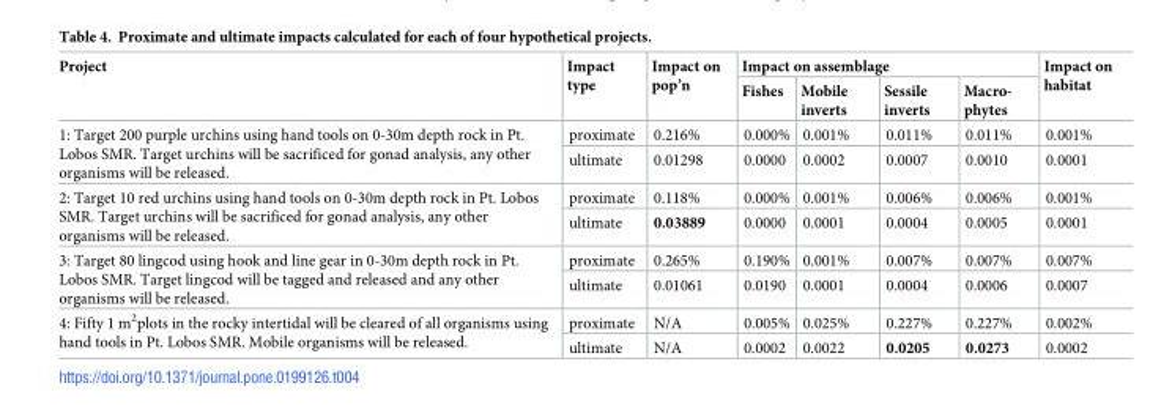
<table><thead><tr><td rowspan="2">Project</td><td rowspan="2">Impact type</td><td rowspan="2">Impact on pop’n</td><td colspan="4">Impact on assemblage</td><td rowspan="2">Impact on habitat</td></tr><tr><td>Fishes</td><td>Mobile inverts</td><td>Sessile inverts</td><td>Macro- phytes</td></tr></thead><tbody><tr><td rowspan="2">1: Target 200 purple urchins using hand tools on 0-30m depth rock in Pt. Lobos SMR. Target urchins will be sacrificed for gonad analysis, any other organisms will be released.</td><td>proximate</td><td>0.216%</td><td>0.000%</td><td>0.001%</td><td>0.011%</td><td>0.011%</td><td>0.001%</td></tr><tr><td>ultimate</td><td>0.01298</td><td>0.0000</td><td>0.0002</td><td>0.0007</td><td>0.0010</td><td>0.0001</td></tr><tr><td rowspan="2">2: Target 10 red urchins using hand tools on 0-30m depth rock in Pt. Lobos SMR. Target urchins will be sacrificed for gonad analysis, any other organisms will be released.</td><td>proximate</td><td>0.118%</td><td>0.000%</td><td>0.001%</td><td>0.006%</td><td>0.006%</td><td>0.001%</td></tr><tr><td>ultimate</td><td>0.03889</td><td>0.0000</td><td>0.0001</td><td>0.0004</td><td>0.0005</td><td>0.0001</td></tr><tr><td rowspan="2">3: Target 80 lingcod using hook and line gear in 0-30m depth rock in Pt. Lobos SMR. Target lingcod will be tagged and released and any other organisms will be released.</td><td>proximate</td><td>0.265%</td><td>0.190%</td><td>0.001%</td><td>0.007%</td><td>0.007%</td><td>0.007%</td></tr><tr><td>ultimate</td><td>0.01061</td><td>0.0190</td><td>0.0001</td><td>0.0004</td><td>0.0006</td><td>0.0007</td></tr><tr><td rowspan="2">4: Fifty 1 m<sup>2</sup>plots in the rocky intertidal will be cleared of all organisms using hand tools in Pt. Lobos SMR. Mobile organisms will be released.</td><td>proximate</td><td>N/A</td><td>0.005%</td><td>0.025%</td><td>0.227%</td><td>0.227%</td><td>0.002%</td></tr><tr><td>ultimate</td><td>N/A</td><td>0.0002</td><td>0.0022</td><td>0.0205</td><td>0.0273</td><td>0.0002</td></tr></tbody></table>